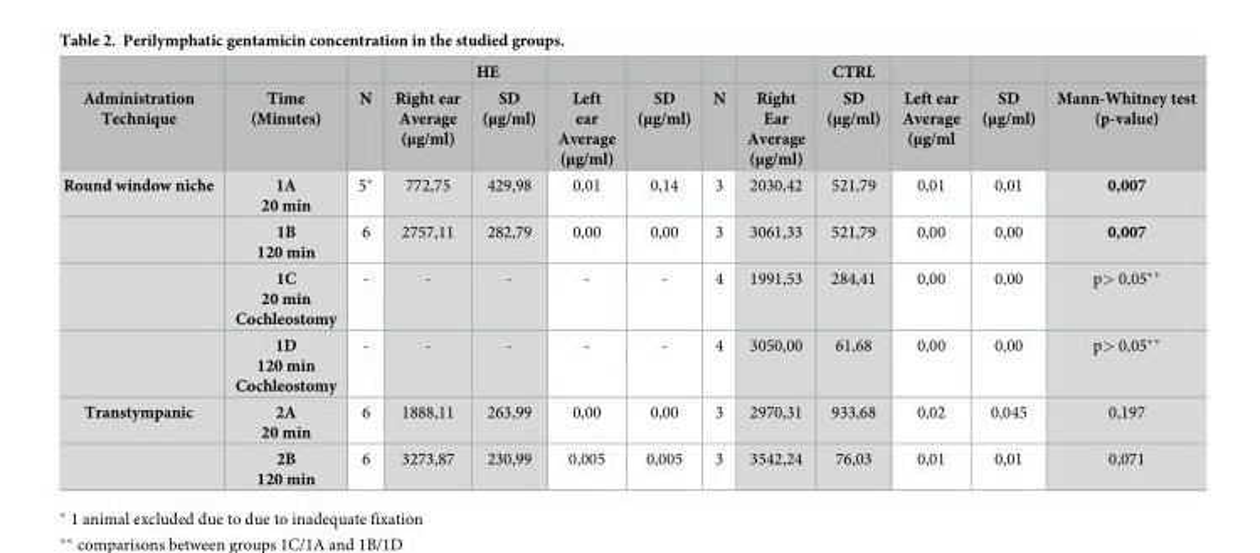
<table><thead><tr><td rowspan="2">Administration Technique</td><td rowspan="2">Time (Minutes)</td><td rowspan="2">N</td><td rowspan="2">Right ear Average (μg/ml)</td><td rowspan="2">HE SD (μg/ml)</td><td rowspan="2">Left ear Average (μg/ml)</td><td rowspan="2">SD (μg/ml)</td><td rowspan="2">N</td><td rowspan="2">Right Ear Average (μg/ml)</td><td rowspan="2">CTRL SD (μg/ml)</td><td rowspan="2">Left ear Average (μg/ml</td><td rowspan="2">SD (μg/ml)</td><td rowspan="2">Mann-Whitney test (p-value)</td></tr><tr></tr></thead><tbody><tr><td rowspan="4">Round window niche</td><td>1A 20 min</td><td>5*</td><td>772,75</td><td>429,98</td><td>0,01</td><td>0,14</td><td>3</td><td>2030,42</td><td>521,79</td><td>0,01</td><td>0,01</td><td>0,007</td></tr><tr><td>1B 120 min</td><td>6</td><td>2757,11</td><td>282,79</td><td>0,00</td><td>0,00</td><td>3</td><td>3061,33</td><td>521,79</td><td>0,00</td><td>0,00</td><td>0,007</td></tr><tr><td>1C 20 min Cochleostomy</td><td>-</td><td>-</td><td>-</td><td>-</td><td>-</td><td>4</td><td>1991,53</td><td>284,41</td><td>0,00</td><td>0,00</td><td>p&gt; 0,05**</td></tr><tr><td>1D 120 min Cochleostomy</td><td>-</td><td>-</td><td>-</td><td>-</td><td>-</td><td>4</td><td>3050,00</td><td>61,68</td><td>0,00</td><td>0,00</td><td>p&gt; 0,05**</td></tr><tr><td rowspan="2">Transtympanic</td><td>2A 20 min</td><td>6</td><td>1888,11</td><td>263,99</td><td>0,00</td><td>0,00</td><td>3</td><td>2970,31</td><td>933,68</td><td>0,02</td><td>0,045</td><td>0,197</td></tr><tr><td>2B 120 min</td><td>6</td><td>3273,87</td><td>230,99</td><td>0,005</td><td>0,005</td><td>3</td><td>3542,24</td><td>76,03</td><td>0,01</td><td>0,01</td><td>0,071</td></tr></tbody></table>